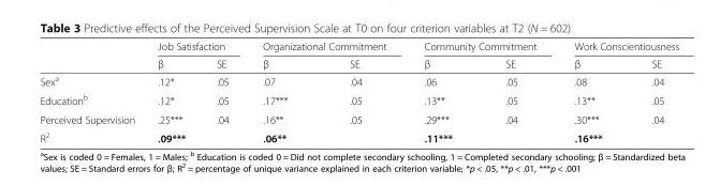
<table><thead><tr><td rowspan="2"></td><td colspan="2">Job Satisfaction</td><td colspan="2">Organizational Commitment</td><td colspan="2">Community Commitment</td><td colspan="2">Work Conscientiousness</td></tr><tr><td>β</td><td>SE</td><td>β</td><td>SE</td><td>β</td><td>SE</td><td>β</td><td>SE</td></tr></thead><tbody><tr><td>Sex<sup>a</sup></td><td>.12*</td><td>.05</td><td>.07</td><td>.04</td><td>.06</td><td>.05</td><td>.08</td><td>.04</td></tr><tr><td>Education<sup>b</sup></td><td>.12*</td><td>.05</td><td>.17***</td><td>.05</td><td>.13**</td><td>.05</td><td>.13**</td><td>.05</td></tr><tr><td>Perceived Supervision</td><td>.25***</td><td>.04</td><td>.16**</td><td>.05</td><td>.29***</td><td>.04</td><td>.30***</td><td>.04</td></tr><tr><td>R<sup>2</sup></td><td colspan="2">.09***</td><td colspan="2">.06**</td><td colspan="2">.11***</td><td colspan="2">.16***</td></tr></tbody></table>